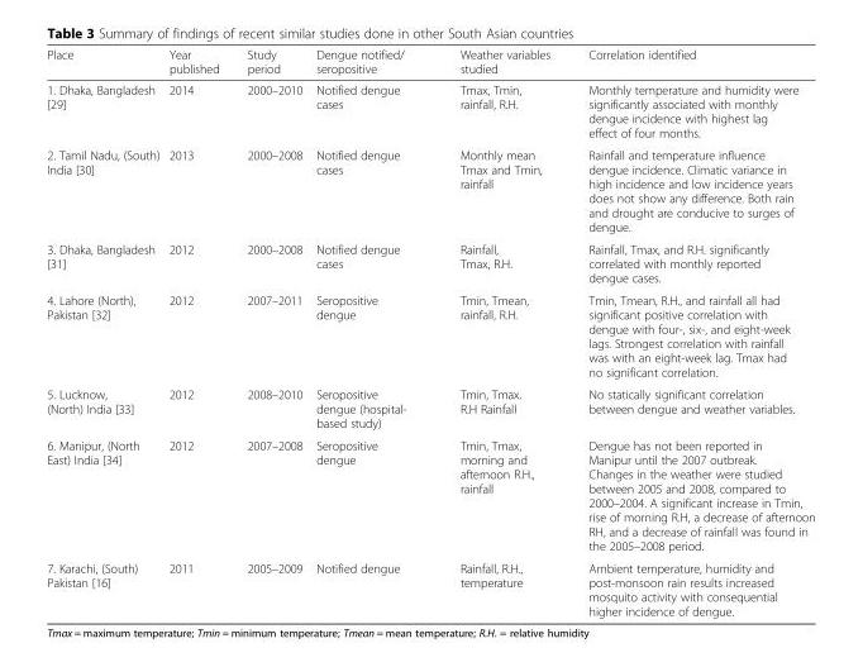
<table><thead><tr><td>Place</td><td>Year published</td><td>Study period</td><td>Dengue notified/ seropositive</td><td>Weather variables studied</td><td>Correlation identified</td></tr></thead><tbody><tr><td>1. Dhaka, Bangladesh [29]</td><td>2014</td><td>2000–2010</td><td>Notified dengue cases</td><td>Tmax, Tmin, rainfall, R.H.</td><td>Monthly temperature and humidity were significantly associated with monthly dengue incidence with highest lag effect of four months.</td></tr><tr><td>2. Tamil Nadu, (South) India [30]</td><td>2013</td><td>2000–2008</td><td>Notified dengue cases</td><td>Monthly mean Tmax and Tmin, rainfall</td><td>Rainfall and temperature influence dengue incidence. Climatic variance in high incidence and low incidence years does not show any difference. Both rain and drought are conducive to surges of dengue.</td></tr><tr><td>3. Dhaka, Bangladesh [31]</td><td>2012</td><td>2000–2008</td><td>Notified dengue cases</td><td>Rainfall, Tmax, R.H.</td><td>Rainfall, Tmax, and R.H. significantly correlated with monthly reported dengue cases.</td></tr><tr><td>4. Lahore (North), Pakistan [32]</td><td>2012</td><td>2007–2011</td><td>Seropositive dengue</td><td>Tmin, Tmean, rainfall, R.H.</td><td>Tmin, Tmean, R.H., and rainfall all had significant positive correlation with dengue with four-, six-, and eight-week lags. Strongest correlation with rainfall was with an eight-week lag. Tmax had no significant correlation.</td></tr><tr><td>5. Lucknow, (North) India [33]</td><td>2012</td><td>2008–2010</td><td>Seropositive dengue (hospital- based study)</td><td>Tmin, Tmax. R.H Rainfall</td><td>No statically significant correlation between dengue and weather variables.</td></tr><tr><td>6. Manipur, (North East) India [34]</td><td>2012</td><td>2007–2008</td><td>Seropositive dengue</td><td>Tmin, Tmax, morning and afternoon R.H., rainfall</td><td>Dengue has not been reported in Manipur until the 2007 outbreak. Changes in the weather were studied between 2005 and 2008, compared to 2000–2004. A significant increase in Tmin, rise of morning R.H, a decrease of afternoon RH, and a decrease of rainfall was found in the 2005–2008 period.</td></tr><tr><td>7. Karachi, (South) Pakistan [16]</td><td>2011</td><td>2005–2009</td><td>Notified dengue</td><td>Rainfall, R.H., temperature</td><td>Ambient temperature, humidity and post-monsoon rain results increased mosquito activity with consequential higher incidence of dengue.</td></tr></tbody></table>